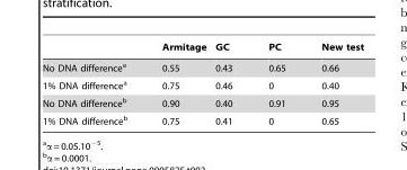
<table><thead><tr><td></td><td>Armitage</td><td>GC</td><td>PC</td><td>New test</td></tr></thead><tbody><tr><td>No DNA difference<sup>a</sup></td><td>0.55</td><td>0.43</td><td>0.65</td><td>0.66</td></tr><tr><td>1% DNA difference<sup>a</sup></td><td>0.75</td><td>0.46</td><td>0</td><td>0.40</td></tr><tr><td>No DNA difference<sup>b</sup></td><td>0.90</td><td>0.40</td><td>0.91</td><td>0.95</td></tr><tr><td>1% DNA difference<sup>b</sup></td><td>0.75</td><td>0.41</td><td>0</td><td>0.65</td></tr></tbody></table>